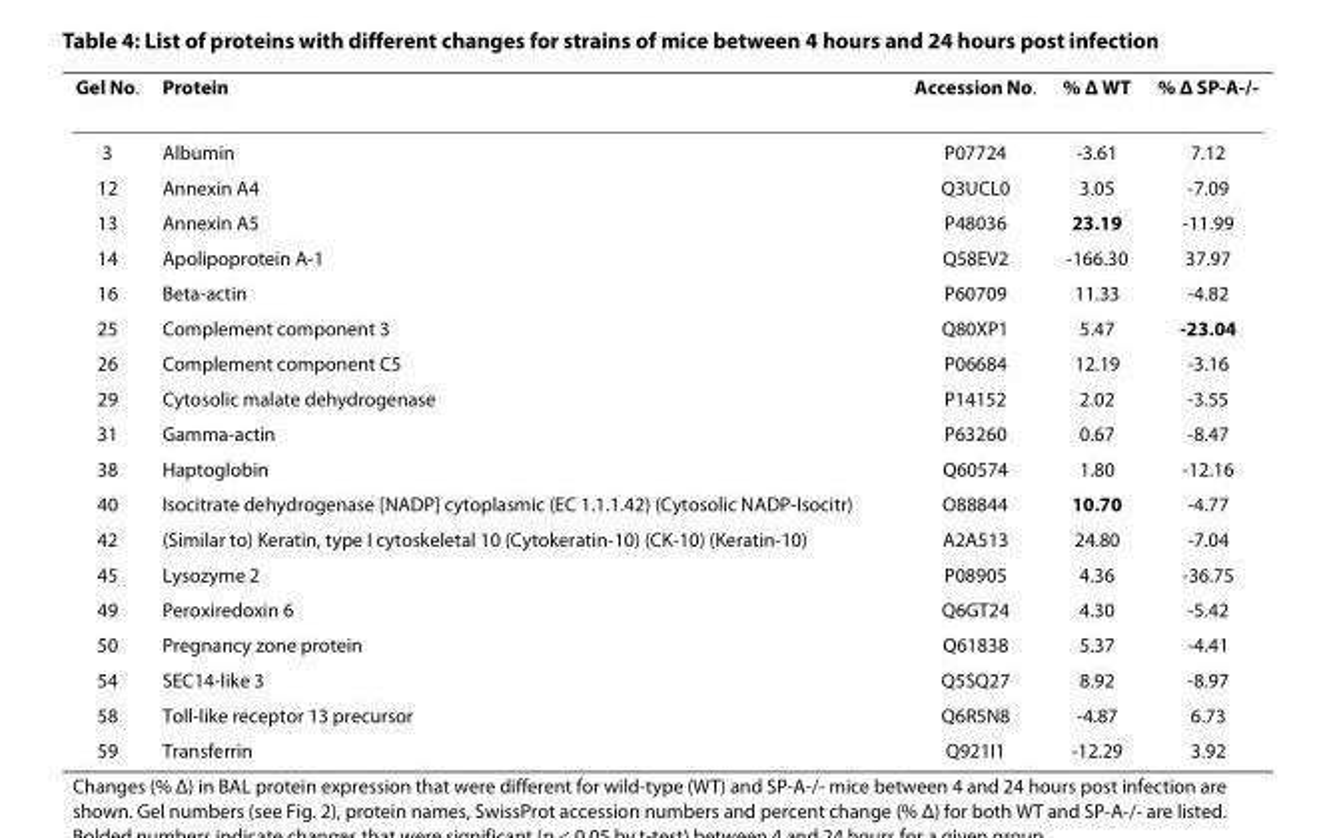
<table><thead><tr><td>Gel No.</td><td>Protein</td><td>Accession No.</td><td>% Δ WT</td><td>% Δ SP-A-/-</td></tr></thead><tbody><tr><td>3</td><td>Albumin</td><td>P07724</td><td>-3.61</td><td>7.12</td></tr><tr><td>12</td><td>Annexin A4</td><td>Q3UCL0</td><td>3.05</td><td>-7.09</td></tr><tr><td>13</td><td>Annexin A5</td><td>P48036</td><td>23.19</td><td>-11.99</td></tr><tr><td>14</td><td>Apolipoprotein A-1</td><td>Q58EV2</td><td>-166.30</td><td>37.97</td></tr><tr><td>16</td><td>Beta-actin</td><td>P60709</td><td>11.33</td><td>-4.82</td></tr><tr><td>25</td><td>Complement component 3</td><td>Q80XP1</td><td>5.47</td><td>-23.04</td></tr><tr><td>26</td><td>Complement component C5</td><td>P06684</td><td>12.19</td><td>-3.16</td></tr><tr><td>29</td><td>Cytosolic malate dehydrogenase</td><td>P14152</td><td>2.02</td><td>-3.55</td></tr><tr><td>31</td><td>Gamma-actin</td><td>P63260</td><td>0.67</td><td>-8.47</td></tr><tr><td>38</td><td>Haptoglobin</td><td>Q60574</td><td>1.80</td><td>-12.16</td></tr><tr><td>40</td><td>Isocitrate dehydrogenase [NADP] cytoplasmic (EC 1.1.1.42) (Cytosolic NADP-Isocitr)</td><td>O88844</td><td>10.70</td><td>-4.77</td></tr><tr><td>42</td><td>(Similar to) Keratin, type I cytoskeletal 10 (Cytokeratin-10) (CK-10) (Keratin-10)</td><td>A2A513</td><td>24.80</td><td>-7.04</td></tr><tr><td>45</td><td>Lysozyme 2</td><td>P08905</td><td>4.36</td><td>-36.75</td></tr><tr><td>49</td><td>Peroxiredoxin 6</td><td>Q6GT24</td><td>4.30</td><td>-5.42</td></tr><tr><td>50</td><td>Pregnancy zone protein</td><td>Q61838</td><td>5.37</td><td>-4.41</td></tr><tr><td>54</td><td>SEC14-like 3</td><td>Q5SQ27</td><td>8.92</td><td>-8.97</td></tr><tr><td>58</td><td>Toll-like receptor 13 precursor</td><td>Q6R5N8</td><td>-4.87</td><td>6.73</td></tr><tr><td>59</td><td>Transferrin</td><td>Q921I1</td><td>-12.29</td><td>3.92</td></tr></tbody></table>